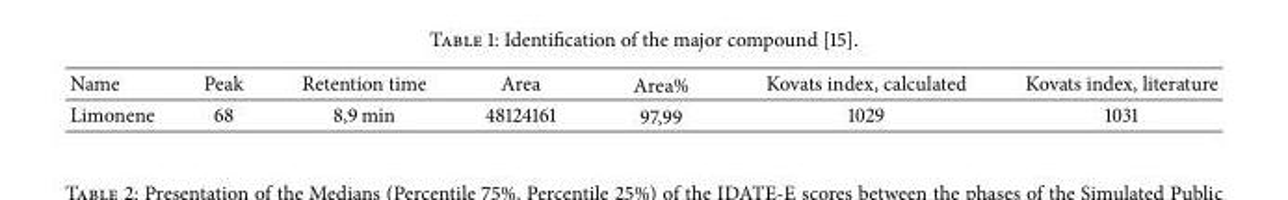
<table><thead><tr><td>Name</td><td>Peak</td><td>Retention time</td><td>Area</td><td>Area%</td><td>Kovats index, calculated</td><td>Kovats index, literature</td></tr></thead><tbody><tr><td>Limonene</td><td>68</td><td>8,9 min</td><td>48124161</td><td>97,99</td><td>1029</td><td>1031</td></tr></tbody></table>